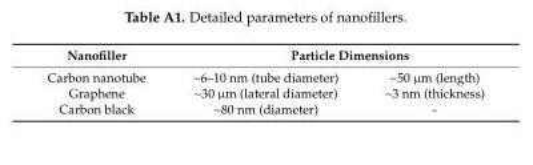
<table><thead><tr><td rowspan="2">Nanofiller Carbon nanotube</td><td colspan="2">Particle Dimensions</td></tr><tr><td>~6–10 nm (tube diameter)</td><td>~50 µm (length)</td></tr></thead><tbody><tr><td>Graphene</td><td>~30 µm (lateral diameter)</td><td>~3 nm (thickness)</td></tr><tr><td>Carbon black</td><td>~80 nm (diameter)</td><td>-</td></tr></tbody></table>